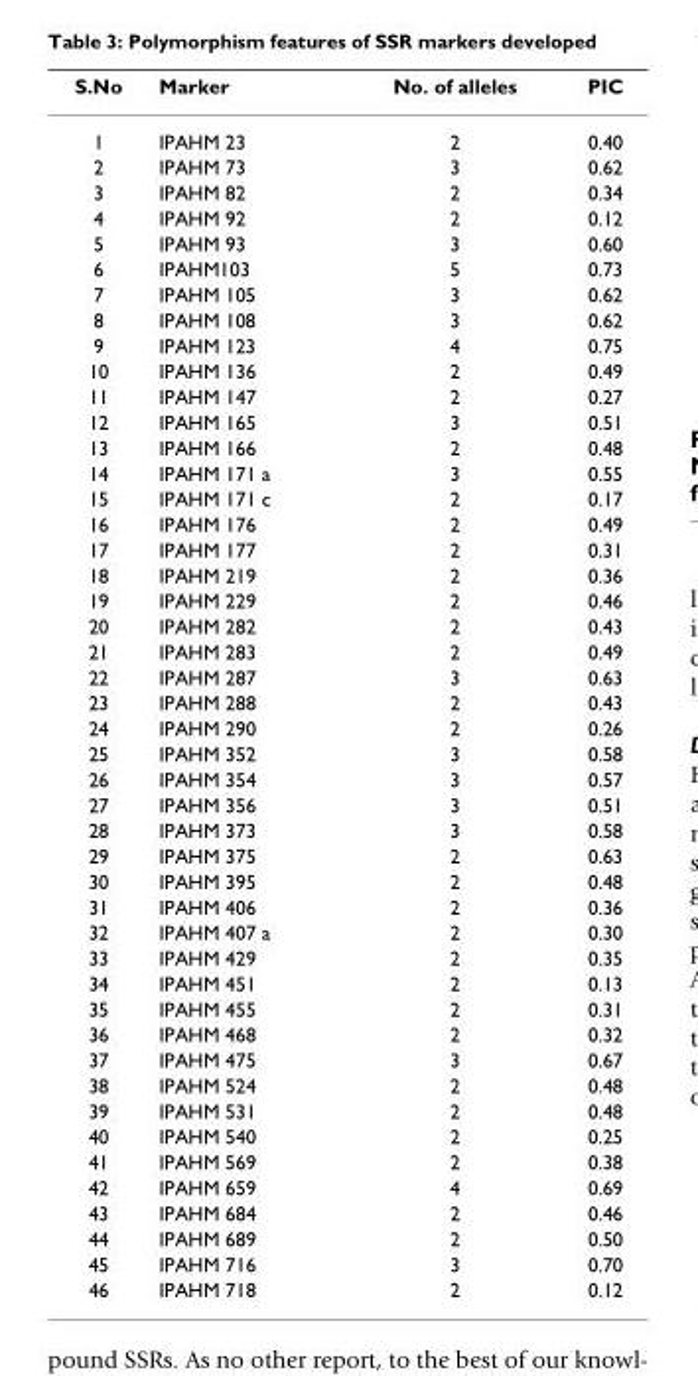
<table><thead><tr><td>S.No</td><td>Marker</td><td>No. of alleles</td><td>PIC</td></tr></thead><tbody><tr><td>1</td><td>IPAHM 23</td><td>2</td><td>0.40</td></tr><tr><td>2</td><td>IPAHM 73</td><td>3</td><td>0.62</td></tr><tr><td>3</td><td>IPAHM 82</td><td>2</td><td>0.34</td></tr><tr><td>4</td><td>IPAHM 92</td><td>2</td><td>0.12</td></tr><tr><td>5</td><td>IPAHM 93</td><td>3</td><td>0.60</td></tr><tr><td>6</td><td>IPAHM103</td><td>5</td><td>0.73</td></tr><tr><td>7</td><td>IPAHM 105</td><td>3</td><td>0.62</td></tr><tr><td>8</td><td>IPAHM 108</td><td>3</td><td>0.62</td></tr><tr><td>9</td><td>IPAHM 123</td><td>4</td><td>0.75</td></tr><tr><td>10</td><td>IPAHM 136</td><td>2</td><td>0.49</td></tr><tr><td>11</td><td>IPAHM 147</td><td>2</td><td>0.27</td></tr><tr><td>12</td><td>IPAHM 165</td><td>3</td><td>0.51</td></tr><tr><td>13</td><td>IPAHM 166</td><td>2</td><td>0.48</td></tr><tr><td>14</td><td>IPAHM 171 a</td><td>3</td><td>0.55</td></tr><tr><td>15</td><td>IPAHM 171 c</td><td>2</td><td>0.17</td></tr><tr><td>16</td><td>IPAHM 176</td><td>2</td><td>0.49</td></tr><tr><td>17</td><td>IPAHM 177</td><td>2</td><td>0.31</td></tr><tr><td>18</td><td>IPAHM 219</td><td>2</td><td>0.36</td></tr><tr><td>19</td><td>IPAHM 229</td><td>2</td><td>0.46</td></tr><tr><td>20</td><td>IPAHM 282</td><td>2</td><td>0.43</td></tr><tr><td>21</td><td>IPAHM 283</td><td>2</td><td>0.49</td></tr><tr><td>22</td><td>IPAHM 287</td><td>3</td><td>0.63</td></tr><tr><td>23</td><td>IPAHM 288</td><td>2</td><td>0.43</td></tr><tr><td>24</td><td>IPAHM 290</td><td>2</td><td>0.26</td></tr><tr><td>25</td><td>IPAHM 352</td><td>3</td><td>0.58</td></tr><tr><td>26</td><td>IPAHM 354</td><td>3</td><td>0.57</td></tr><tr><td>27</td><td>IPAHM 356</td><td>3</td><td>0.51</td></tr><tr><td>28</td><td>IPAHM 373</td><td>3</td><td>0.58</td></tr><tr><td>29</td><td>IPAHM 375</td><td>2</td><td>0.63</td></tr><tr><td>30</td><td>IPAHM 395</td><td>2</td><td>0.48</td></tr><tr><td>31</td><td>IPAHM 406</td><td>2</td><td>0.36</td></tr><tr><td>32</td><td>IPAHM 407 a</td><td>2</td><td>0.30</td></tr><tr><td>33</td><td>IPAHM 429</td><td>2</td><td>0.35</td></tr><tr><td>34</td><td>IPAHM 451</td><td>2</td><td>0.13</td></tr><tr><td>35</td><td>IPAHM 455</td><td>2</td><td>0.31</td></tr><tr><td>36</td><td>IPAHM 468</td><td>2</td><td>0.32</td></tr><tr><td>37</td><td>IPAHM 475</td><td>3</td><td>0.67</td></tr><tr><td>38</td><td>IPAHM 524</td><td>2</td><td>0.48</td></tr><tr><td>39</td><td>IPAHM 531</td><td>2</td><td>0.48</td></tr><tr><td>40</td><td>IPAHM 540</td><td>2</td><td>0.25</td></tr><tr><td>41</td><td>IPAHM 569</td><td>2</td><td>0.38</td></tr><tr><td>42</td><td>IPAHM 659</td><td>4</td><td>0.69</td></tr><tr><td>43</td><td>IPAHM 684</td><td>2</td><td>0.46</td></tr><tr><td>44</td><td>IPAHM 689</td><td>2</td><td>0.50</td></tr><tr><td>45</td><td>IPAHM 716</td><td>3</td><td>0.70</td></tr><tr><td>46</td><td>IPAHM 718</td><td>2</td><td>0.12</td></tr></tbody></table>